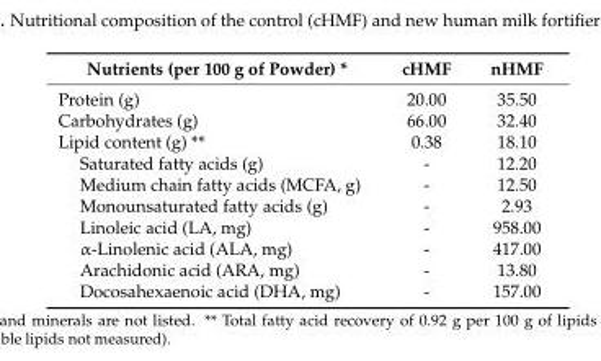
<table><thead><tr><td>Nutrients (per 100 g of Powder) *</td><td>cHMF</td><td>nHMF</td></tr></thead><tbody><tr><td>Protein (g)</td><td>20.00</td><td>35.50</td></tr><tr><td>Carbohydrates (g)</td><td>66.00</td><td>32.40</td></tr><tr><td>Lipid content (g) **</td><td>0.38</td><td>18.10</td></tr><tr><td>Saturated fatty acids (g)</td><td>-</td><td>12.20</td></tr><tr><td>Medium chain fatty acids (MCFA, g)</td><td>-</td><td>12.50</td></tr><tr><td>Monounsaturated fatty acids (g)</td><td>-</td><td>2.93</td></tr><tr><td>Linoleic acid (LA, mg)</td><td>-</td><td>958.00</td></tr><tr><td>α-Linolenic acid (ALA, mg)</td><td>-</td><td>417.00</td></tr><tr><td>Arachidonic acid (ARA, mg)</td><td>-</td><td>13.80</td></tr><tr><td>Docosahexaenoic acid (DHA, mg)</td><td>-</td><td>157.00</td></tr></tbody></table>